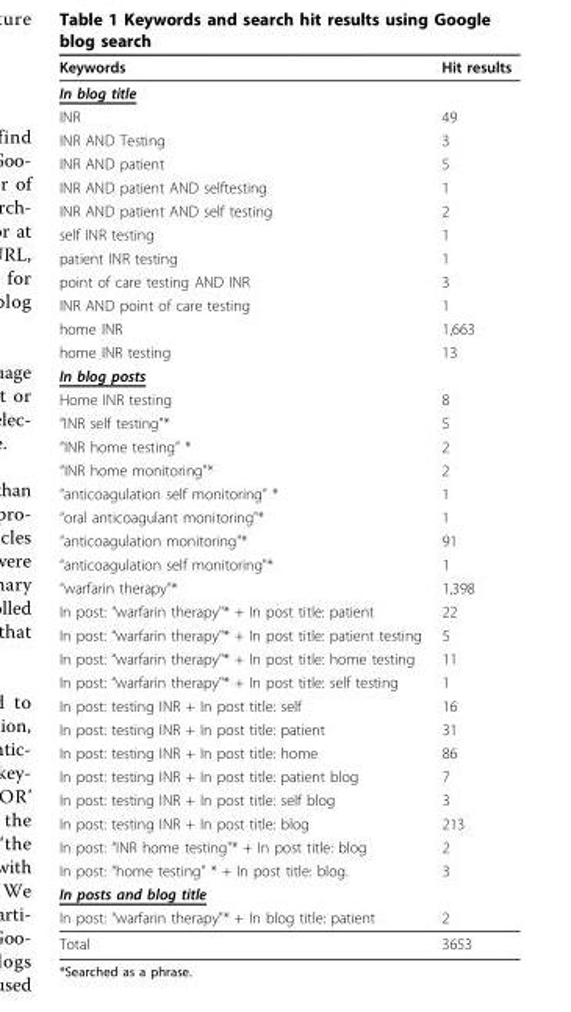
<table><thead><tr><td>Keywords</td><td>Hit results</td></tr></thead><tbody><tr><td colspan="2">In blog title</td></tr><tr><td>INR</td><td>49</td></tr><tr><td>INR AND Testing</td><td>3</td></tr><tr><td>INR AND patient</td><td>5</td></tr><tr><td>INR AND patient AND selftesting</td><td>1</td></tr><tr><td>INR AND patient AND self testing</td><td>2</td></tr><tr><td>self INR testing</td><td>1</td></tr><tr><td>patient INR testing</td><td>1</td></tr><tr><td>point of care testing AND INR</td><td>3</td></tr><tr><td>INR AND point of care testing</td><td>1</td></tr><tr><td>home INR</td><td>1,663</td></tr><tr><td>home INR testing</td><td>13</td></tr><tr><td colspan="2">In blog posts</td></tr><tr><td>Home INR testing</td><td>8</td></tr><tr><td>“INR self testing&quot;*</td><td>5</td></tr><tr><td>“INR home testing” *</td><td>2</td></tr><tr><td>“INR home monitoring&quot;*</td><td>2</td></tr><tr><td>“anticoagulation self monitoring” *</td><td>1</td></tr><tr><td>“oral anticoagulant monitoring&quot;*</td><td>1</td></tr><tr><td>“anticoagulation monitoring&quot;*</td><td>91</td></tr><tr><td>“anticoagulation self monitoring&quot;*</td><td>1</td></tr><tr><td>“warfarin therapy&quot;*</td><td>1,398</td></tr><tr><td>In post: “warfarin therapy&quot;* + In post title: patient</td><td>22</td></tr><tr><td>In post: “warfarin therapy&quot;* + In post title: patient testing</td><td>5</td></tr><tr><td>In post: “warfarin therapy&quot;* + In post title: home testing</td><td>11</td></tr><tr><td>In post: “warfarin therapy&quot;* + In post title: self testing</td><td>1</td></tr><tr><td>In post: testing INR + In post title: self</td><td>16</td></tr><tr><td>In post: testing INR + In post title: patient</td><td>31</td></tr><tr><td>In post: testing INR + In post title: home</td><td>86</td></tr><tr><td>In post: testing INR + In post title: patient blog</td><td>7</td></tr><tr><td>In post: testing INR + In post title: self blog</td><td>3</td></tr><tr><td>In post: testing INR + In post title: blog</td><td>213</td></tr><tr><td>In post: “INR home testing&quot;* + In post title: blog</td><td>2</td></tr><tr><td>In post: “home testing” * + In post title: blog.</td><td>3</td></tr><tr><td colspan="2">In posts and blog title</td></tr><tr><td>In post: “warfarin therapy&quot;* + In blog title: patient</td><td>2</td></tr><tr><td>Total</td><td>3653</td></tr></tbody></table>